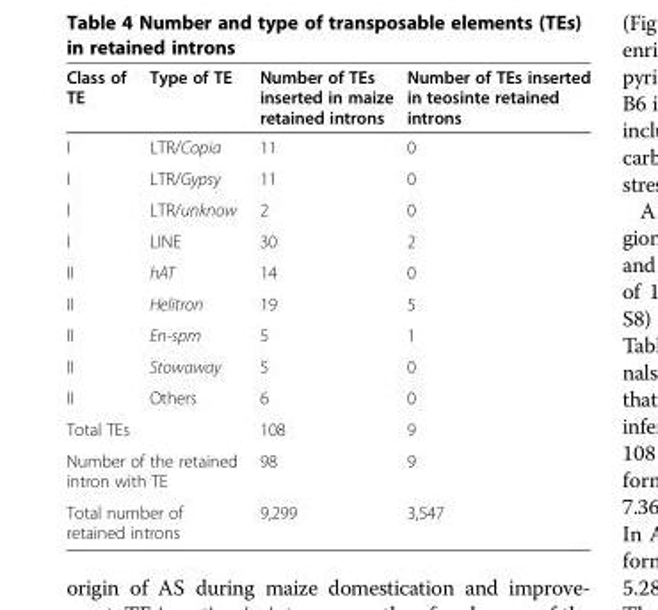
<table><thead><tr><td>Class of TE</td><td>Type of TE</td><td>Number of TEs inserted in maize retained introns</td><td>Number of TEs inserted in teosinte retained introns</td></tr></thead><tbody><tr><td>I</td><td>LTR/Copia</td><td>11</td><td>0</td></tr><tr><td>I</td><td>LTR/Gypsy</td><td>11</td><td>0</td></tr><tr><td>I</td><td>LTR/unknow</td><td>2</td><td>0</td></tr><tr><td>I</td><td>LINE</td><td>30</td><td>2</td></tr><tr><td>II</td><td>hAT</td><td>14</td><td>0</td></tr><tr><td>II</td><td>Helitron</td><td>19</td><td>5</td></tr><tr><td>II</td><td>En-spm</td><td>5</td><td>1</td></tr><tr><td>II</td><td>Stowaway</td><td>5</td><td>0</td></tr><tr><td>II</td><td>Others</td><td>6</td><td>0</td></tr><tr><td colspan="2">Total TEs</td><td>108</td><td>9</td></tr><tr><td colspan="2">Number of the retained intron with TE</td><td>98</td><td>9</td></tr><tr><td colspan="2">Total number of retained introns</td><td>9,299</td><td>3,547</td></tr></tbody></table>